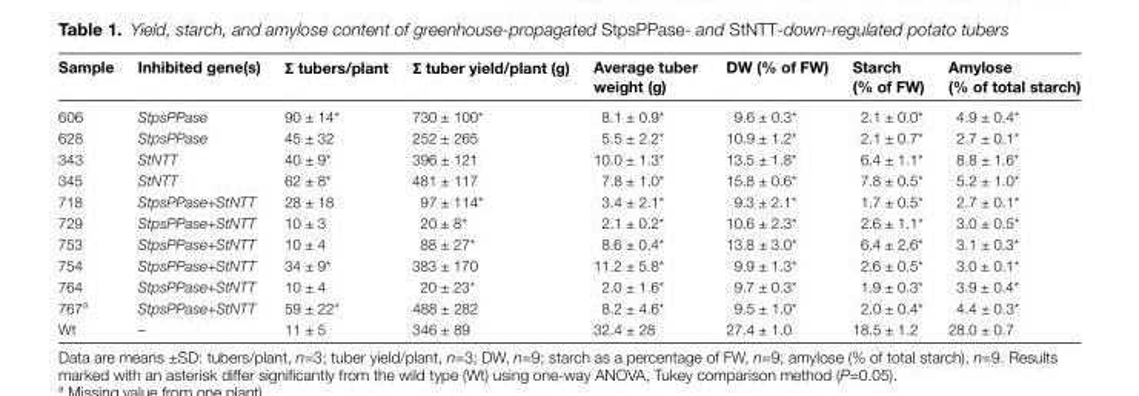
<table><thead><tr><td>Sample</td><td>Inhibited gene(s)</td><td>Σ tubers/plant</td><td>Σ tuber yield/plant (g)</td><td>Average tuber weight (g)</td><td>DW (% of FW)</td><td>Starch (% of FW)</td><td>Amylose (% of total starch)</td></tr></thead><tbody><tr><td>606</td><td>StpsPPase</td><td>90 ± 14*</td><td>730 ± 100*</td><td>8.1 ± 0.9*</td><td>9.6 ± 0.3*</td><td>2.1 ± 0.0*</td><td>4.9 ± 0.4*</td></tr><tr><td>628</td><td>StpsPPase</td><td>45 ± 32</td><td>252 ± 265</td><td>5.5 ± 2.2*</td><td>10.9 ± 1.2*</td><td>2.1 ± 0.7*</td><td>2.7 ± 0.1*</td></tr><tr><td>343</td><td>StNTT</td><td>40 ± 9*</td><td>396 ± 121</td><td>10.0 ± 1.3*</td><td>13.5 ± 1.8*</td><td>6.4 ± 1.1*</td><td>8.8 ± 1.6*</td></tr><tr><td>345</td><td>StNTT</td><td>62 ± 8*</td><td>481 ± 117</td><td>7.8 ± 1.0*</td><td>15.8 ± 0.6*</td><td>7.8 ± 0.5*</td><td>5.2 ± 1.0*</td></tr><tr><td>718</td><td>StpsPPase+StNTT</td><td>28 ± 18</td><td>97 ± 114*</td><td>3.4 ± 2.1*</td><td>9.3 ± 2.1*</td><td>1.7 ± 0.5*</td><td>2.7 ± 0.1*</td></tr><tr><td>729</td><td>StpsPPase+StNTT</td><td>10 ± 3</td><td>20 ± 8*</td><td>2.1 ± 0.2*</td><td>10.6 ± 2.3*</td><td>2.6 ± 1.1*</td><td>3.0 ± 0.5*</td></tr><tr><td>753</td><td>StpsPPase+StNTT</td><td>10 ± 4</td><td>88 ± 27*</td><td>8.6 ± 0.4*</td><td>13.8 ± 3.0*</td><td>6.4 ± 2.6*</td><td>3.1 ± 0.3*</td></tr><tr><td>754</td><td>StpsPPase+StNTT</td><td>34 ± 9*</td><td>383 ± 170</td><td>11.2 ± 5.8*</td><td>9.9 ± 1.3*</td><td>2.6 ± 0.5*</td><td>3.0 ± 0.1*</td></tr><tr><td>764</td><td>StpsPPase+StNTT</td><td>10 ± 4</td><td>20 ± 23*</td><td>2.0 ± 1.6*</td><td>9.7 ± 0.3*</td><td>1.9 ± 0.3*</td><td>3.9 ± 0.4*</td></tr><tr><td>767<sup>a</sup></td><td>StpsPPase+StNTT</td><td>59 ± 22*</td><td>488 ± 282</td><td>8.2 ± 4.6*</td><td>9.5 ± 1.0*</td><td>2.0 ± 0.4*</td><td>4.4 ± 0.3*</td></tr><tr><td>Wt</td><td>–</td><td>11 ± 5</td><td>346 ± 89</td><td>32.4 ± 28</td><td>27.4 ± 1.0</td><td>18.5 ± 1.2</td><td>28.0 ± 0.7</td></tr></tbody></table>